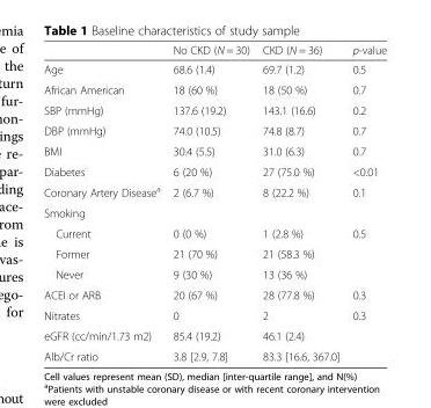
<table><thead><tr><td></td><td>No CKD (N = 30)</td><td>CKD (N = 36)</td><td>p-value</td></tr></thead><tbody><tr><td>Age</td><td>68.6 (1.4)</td><td>69.7 (1.2)</td><td>0.5</td></tr><tr><td>African American</td><td>18 (60 %)</td><td>18 (50 %)</td><td>0.7</td></tr><tr><td>SBP (mmHg)</td><td>137.6 (19.2)</td><td>143.1 (16.6)</td><td>0.2</td></tr><tr><td>DBP (mmHg)</td><td>74.0 (10.5)</td><td>74.8 (8.7)</td><td>0.7</td></tr><tr><td>BMI</td><td>30.4 (5.5)</td><td>31.0 (6.3)</td><td>0.7</td></tr><tr><td>Diabetes</td><td>6 (20 %)</td><td>27 (75.0 %)</td><td>&lt;0.01</td></tr><tr><td>Coronary Artery Disease<sup>a</sup></td><td>2 (6.7 %)</td><td>8 (22.2 %)</td><td>0.1</td></tr><tr><td colspan="4">Smoking</td></tr><tr><td>Current</td><td>0 (0 %)</td><td>1 (2.8 %)</td><td rowspan="3">0.5</td></tr><tr><td>Former</td><td>21 (70 %)</td><td>21 (58.3 %)</td></tr><tr><td>Never</td><td>9 (30 %)</td><td>13 (36 %)</td></tr><tr><td>ACEI or ARB</td><td>20 (67 %)</td><td>28 (77.8 %)</td><td>0.3</td></tr><tr><td>Nitrates</td><td>0</td><td>2</td><td>0.3</td></tr><tr><td>eGFR (cc/min/1.73 m2)</td><td>85.4 (19.2)</td><td>46.1 (2.4)</td><td></td></tr><tr><td>Alb/Cr ratio</td><td>3.8 [2.9, 7.8]</td><td>83.3 [16.6, 367.0]</td><td></td></tr></tbody></table>